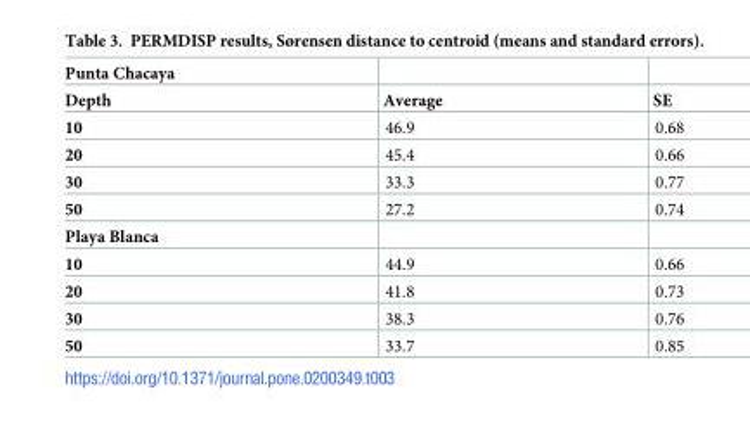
<table><thead><tr><td rowspan="2">Punta Chacaya Depth</td><td rowspan="2">Average</td><td rowspan="2">SE</td></tr><tr></tr></thead><tbody><tr><td>10</td><td>46.9</td><td>0.68</td></tr><tr><td>20</td><td>45.4</td><td>0.66</td></tr><tr><td>30</td><td>33.3</td><td>0.77</td></tr><tr><td>50</td><td>27.2</td><td>0.74</td></tr><tr><td colspan="3">Playa Blanca</td></tr><tr><td>10</td><td>44.9</td><td>0.66</td></tr><tr><td>20</td><td>41.8</td><td>0.73</td></tr><tr><td>30</td><td>38.3</td><td>0.76</td></tr><tr><td>50</td><td>33.7</td><td>0.85</td></tr></tbody></table>